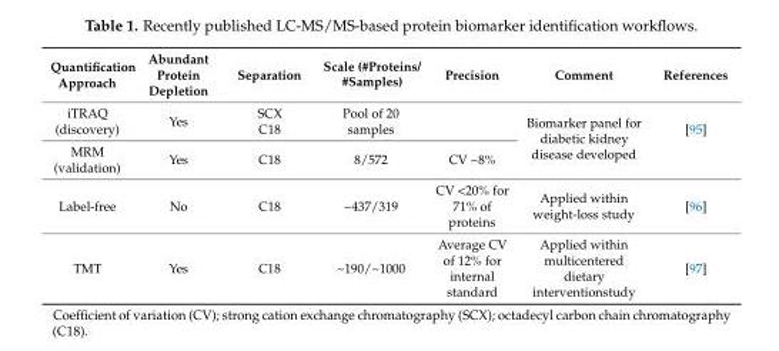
<table><thead><tr><td>Quantification Approach</td><td>Abundant Protein Depletion</td><td>Separation</td><td>Scale (#Proteins/ #Samples)</td><td>Precision</td><td>Comment</td><td>References</td></tr></thead><tbody><tr><td>iTRAQ (discovery)</td><td>Yes</td><td>SCX C18</td><td>Pool of 20 samples</td><td></td><td rowspan="2">Biomarker panel for diabetic kidney disease developed</td><td rowspan="2">[95]</td></tr><tr><td>MRM (validation)</td><td>Yes</td><td>C18</td><td>8/572</td><td>CV ~8%</td></tr><tr><td>Label-free</td><td>No</td><td>C18</td><td>~437/319</td><td>CV &lt;20% for 71% of proteins</td><td>Applied within weight-loss study</td><td>[96]</td></tr><tr><td>TMT</td><td>Yes</td><td>C18</td><td>~190/~1000</td><td>Average CV of 12% for internal standard</td><td>Applied within multicentered dietary interventionstudy</td><td>[97]</td></tr></tbody></table>